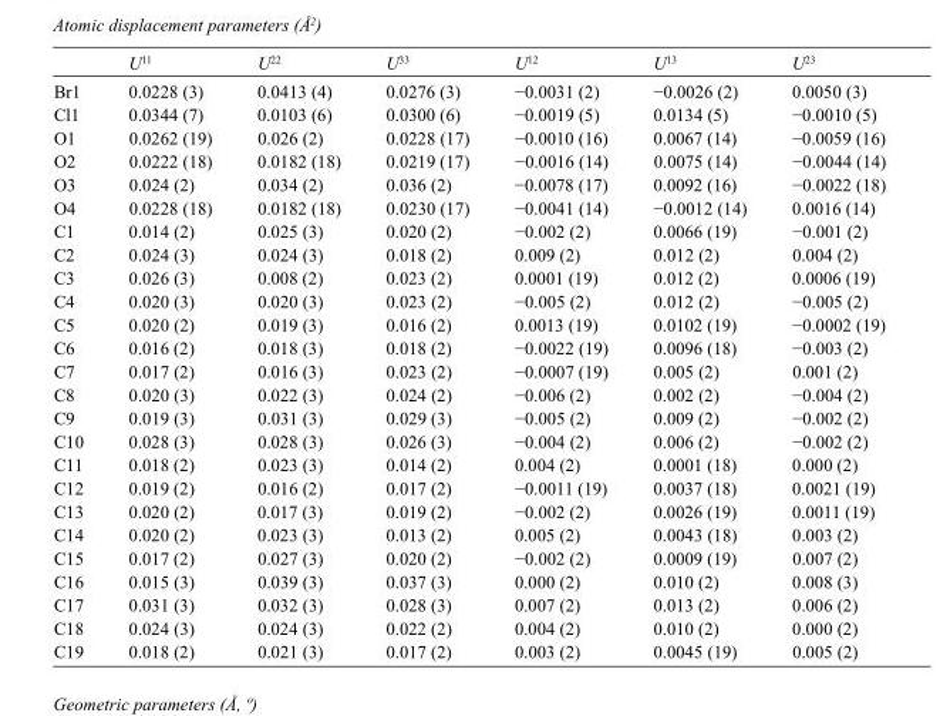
<table><thead><tr><td></td><td>U<sup>11</sup></td><td>U<sup>22</sup></td><td>U<sup>33</sup></td><td>U<sup>12</sup></td><td>U<sup>13</sup></td><td>U<sup>23</sup></td></tr></thead><tbody><tr><td>Br1</td><td>0.0228 (3)</td><td>0.0413 (4)</td><td>0.0276 (3)</td><td>−0.0031 (2)</td><td>−0.0026 (2)</td><td>0.0050 (3)</td></tr><tr><td>Cl1</td><td>0.0344 (7)</td><td>0.0103 (6)</td><td>0.0300 (6)</td><td>−0.0019 (5)</td><td>0.0134 (5)</td><td>−0.0010 (5)</td></tr><tr><td>O1</td><td>0.0262 (19)</td><td>0.026 (2)</td><td>0.0228 (17)</td><td>−0.0010 (16)</td><td>0.0067 (14)</td><td>−0.0059 (16)</td></tr><tr><td>O2</td><td>0.0222 (18)</td><td>0.0182 (18)</td><td>0.0219 (17)</td><td>−0.0016 (14)</td><td>0.0075 (14)</td><td>−0.0044 (14)</td></tr><tr><td>O3</td><td>0.024 (2)</td><td>0.034 (2)</td><td>0.036 (2)</td><td>−0.0078 (17)</td><td>0.0092 (16)</td><td>−0.0022 (18)</td></tr><tr><td>O4</td><td>0.0228 (18)</td><td>0.0182 (18)</td><td>0.0230 (17)</td><td>−0.0041 (14)</td><td>−0.0012 (14)</td><td>0.0016 (14)</td></tr><tr><td>C1</td><td>0.014 (2)</td><td>0.025 (3)</td><td>0.020 (2)</td><td>−0.002 (2)</td><td>0.0066 (19)</td><td>−0.001 (2)</td></tr><tr><td>C2</td><td>0.024 (3)</td><td>0.024 (3)</td><td>0.018 (2)</td><td>0.009 (2)</td><td>0.012 (2)</td><td>0.004 (2)</td></tr><tr><td>C3</td><td>0.026 (3)</td><td>0.008 (2)</td><td>0.023 (2)</td><td>0.0001 (19)</td><td>0.012 (2)</td><td>0.0006 (19)</td></tr><tr><td>C4</td><td>0.020 (3)</td><td>0.020 (3)</td><td>0.023 (2)</td><td>−0.005 (2)</td><td>0.012 (2)</td><td>−0.005 (2)</td></tr><tr><td>C5</td><td>0.020 (2)</td><td>0.019 (3)</td><td>0.016 (2)</td><td>0.0013 (19)</td><td>0.0102 (19)</td><td>−0.0002 (19)</td></tr><tr><td>C6</td><td>0.016 (2)</td><td>0.018 (3)</td><td>0.018 (2)</td><td>−0.0022 (19)</td><td>0.0096 (18)</td><td>−0.003 (2)</td></tr><tr><td>C7</td><td>0.017 (2)</td><td>0.016 (3)</td><td>0.023 (2)</td><td>−0.0007 (19)</td><td>0.005 (2)</td><td>0.001 (2)</td></tr><tr><td>C8</td><td>0.020 (3)</td><td>0.022 (3)</td><td>0.024 (2)</td><td>−0.006 (2)</td><td>0.002 (2)</td><td>−0.004 (2)</td></tr><tr><td>C9</td><td>0.019 (3)</td><td>0.031 (3)</td><td>0.029 (3)</td><td>−0.005 (2)</td><td>0.009 (2)</td><td>−0.002 (2)</td></tr><tr><td>C10</td><td>0.028 (3)</td><td>0.028 (3)</td><td>0.026 (3)</td><td>−0.004 (2)</td><td>0.006 (2)</td><td>−0.002 (2)</td></tr><tr><td>C11</td><td>0.018 (2)</td><td>0.023 (3)</td><td>0.014 (2)</td><td>0.004 (2)</td><td>0.0001 (18)</td><td>0.000 (2)</td></tr><tr><td>C12</td><td>0.019 (2)</td><td>0.016 (2)</td><td>0.017 (2)</td><td>−0.0011 (19)</td><td>0.0037 (18)</td><td>0.0021 (19)</td></tr><tr><td>C13</td><td>0.020 (2)</td><td>0.017 (3)</td><td>0.019 (2)</td><td>−0.002 (2)</td><td>0.0026 (19)</td><td>0.0011 (19)</td></tr><tr><td>C14</td><td>0.020 (2)</td><td>0.023 (3)</td><td>0.013 (2)</td><td>0.005 (2)</td><td>0.0043 (18)</td><td>0.003 (2)</td></tr><tr><td>C15</td><td>0.017 (2)</td><td>0.027 (3)</td><td>0.020 (2)</td><td>−0.002 (2)</td><td>0.0009 (19)</td><td>0.007 (2)</td></tr><tr><td>C16</td><td>0.015 (3)</td><td>0.039 (3)</td><td>0.037 (3)</td><td>0.000 (2)</td><td>0.010 (2)</td><td>0.008 (3)</td></tr><tr><td>C17</td><td>0.031 (3)</td><td>0.032 (3)</td><td>0.028 (3)</td><td>0.007 (2)</td><td>0.013 (2)</td><td>0.006 (2)</td></tr><tr><td>C18</td><td>0.024 (3)</td><td>0.024 (3)</td><td>0.022 (2)</td><td>0.004 (2)</td><td>0.010 (2)</td><td>0.000 (2)</td></tr><tr><td>C19</td><td>0.018 (2)</td><td>0.021 (3)</td><td>0.017 (2)</td><td>0.003 (2)</td><td>0.0045 (19)</td><td>0.005 (2)</td></tr></tbody></table>